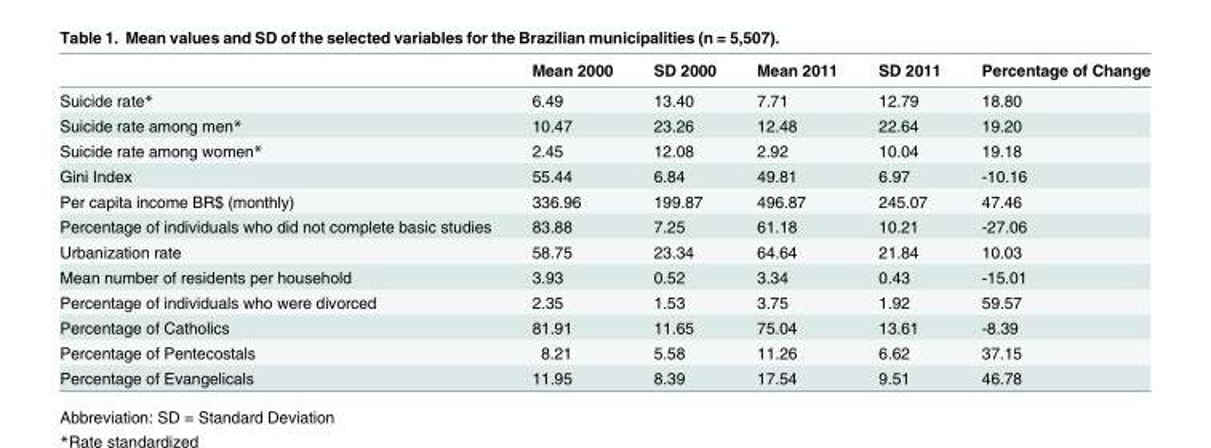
<table><thead><tr><td></td><td>Mean 2000</td><td>SD 2000</td><td>Mean 2011</td><td>SD 2011</td><td>Percentage of Change</td></tr></thead><tbody><tr><td>Suicide rate*</td><td>6.49</td><td>13.40</td><td>7.71</td><td>12.79</td><td>18.80</td></tr><tr><td>Suicide rate among men*</td><td>10.47</td><td>23.26</td><td>12.48</td><td>22.64</td><td>19.20</td></tr><tr><td>Suicide rate among women*</td><td>2.45</td><td>12.08</td><td>2.92</td><td>10.04</td><td>19.18</td></tr><tr><td>Gini Index</td><td>55.44</td><td>6.84</td><td>49.81</td><td>6.97</td><td>-10.16</td></tr><tr><td>Per capita income BR$ (monthly)</td><td>336.96</td><td>199.87</td><td>496.87</td><td>245.07</td><td>47.46</td></tr><tr><td>Percentage of individuals who did not complete basic studies</td><td>83.88</td><td>7.25</td><td>61.18</td><td>10.21</td><td>-27.06</td></tr><tr><td>Urbanization rate</td><td>58.75</td><td>23.34</td><td>64.64</td><td>21.84</td><td>10.03</td></tr><tr><td>Mean number of residents per household</td><td>3.93</td><td>0.52</td><td>3.34</td><td>0.43</td><td>-15.01</td></tr><tr><td>Percentage of individuals who were divorced</td><td>2.35</td><td>1.53</td><td>3.75</td><td>1.92</td><td>59.57</td></tr><tr><td>Percentage of Catholics</td><td>81.91</td><td>11.65</td><td>75.04</td><td>13.61</td><td>-8.39</td></tr><tr><td>Percentage of Pentecostals</td><td>8.21</td><td>5.58</td><td>11.26</td><td>6.62</td><td>37.15</td></tr><tr><td>Percentage of Evangelicals</td><td>11.95</td><td>8.39</td><td>17.54</td><td>9.51</td><td>46.78</td></tr></tbody></table>